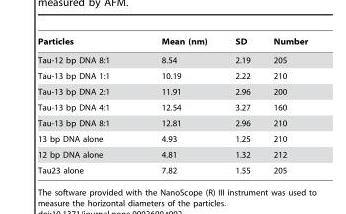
<table><thead><tr><td>Particles</td><td>Mean (nm)</td><td>SD</td><td>Number</td></tr></thead><tbody><tr><td>Tau-12 bp DNA 8:1</td><td>8.54</td><td>2.19</td><td>205</td></tr><tr><td>Tau-13 bp DNA 1:1</td><td>10.19</td><td>2.22</td><td>210</td></tr><tr><td>Tau-13 bp DNA 2:1</td><td>11.91</td><td>2.96</td><td>200</td></tr><tr><td>Tau-13 bp DNA 4:1</td><td>12.54</td><td>3.27</td><td>160</td></tr><tr><td>Tau-13 bp DNA 8:1</td><td>12.81</td><td>2.96</td><td>210</td></tr><tr><td>13 bp DNA alone</td><td>4.93</td><td>1.25</td><td>210</td></tr><tr><td>12 bp DNA alone</td><td>4.81</td><td>1.32</td><td>212</td></tr><tr><td>Tau23 alone</td><td>7.82</td><td>1.55</td><td>205</td></tr></tbody></table>